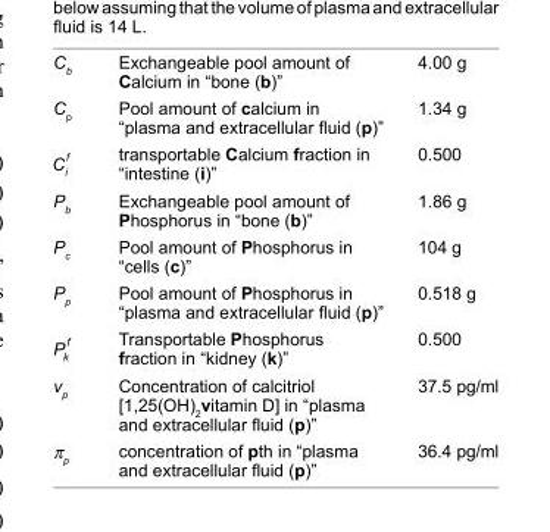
<table><tbody><tr><td>C<sub>b</sub></td><td>exchangeable pool amount of calcium in “bone (b)”</td><td>4.00 g</td></tr><tr><td>C<sub>p</sub></td><td>Pool amount of calcium in “plasma and extracellular fluid (p)”</td><td>1.34 g</td></tr><tr><td>C<sub>i</sub> <sup>f</sup></td><td>transportable calcium fraction in “intestine (i)”</td><td>0.500</td></tr><tr><td>P<sub>b</sub></td><td>exchangeable pool amount of phosphorus in “bone (b)”</td><td>1.86 g</td></tr><tr><td>P<sub>c</sub></td><td>Pool amount of phosphorus in “cells (c)”</td><td>104 g</td></tr><tr><td>P<sub>p</sub></td><td>Pool amount of phosphorus in “plasma and extracellular fluid (p)”</td><td>0.518 g</td></tr><tr><td>P<sub>k</sub> <sup>f</sup></td><td>Transportable phosphorus fraction in “kidney (k)”</td><td>0.500</td></tr><tr><td>v<sub>p</sub></td><td>Concentration of calcitriol [1,25(Oh)<sub>2</sub>vitamin D] in “plasma and extracellular fluid (p)”</td><td>37.5 pg/ml</td></tr><tr><td>π<sub>p</sub></td><td>concentration of pth in “plasma and extracellular fluid (p)”</td><td>36.4 pg/ml</td></tr></tbody></table>